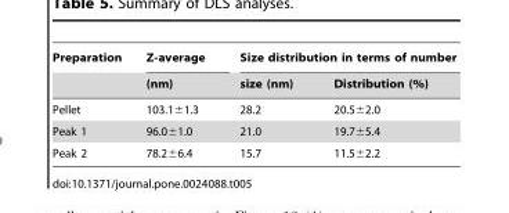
<table><thead><tr><td rowspan="2">Preparation</td><td rowspan="2">Z-average (nm)</td><td colspan="2">Size distribution in terms of number</td></tr><tr><td>size (nm)</td><td>Distribution (%)</td></tr></thead><tbody><tr><td>Pellet</td><td>103.1±1.3</td><td>28.2</td><td>20.5±2.0</td></tr><tr><td>Peak 1</td><td>96.0±1.0</td><td>21.0</td><td>19.7±5.4</td></tr><tr><td>Peak 2</td><td>78.2±6.4</td><td>15.7</td><td>11.5±2.2</td></tr></tbody></table>